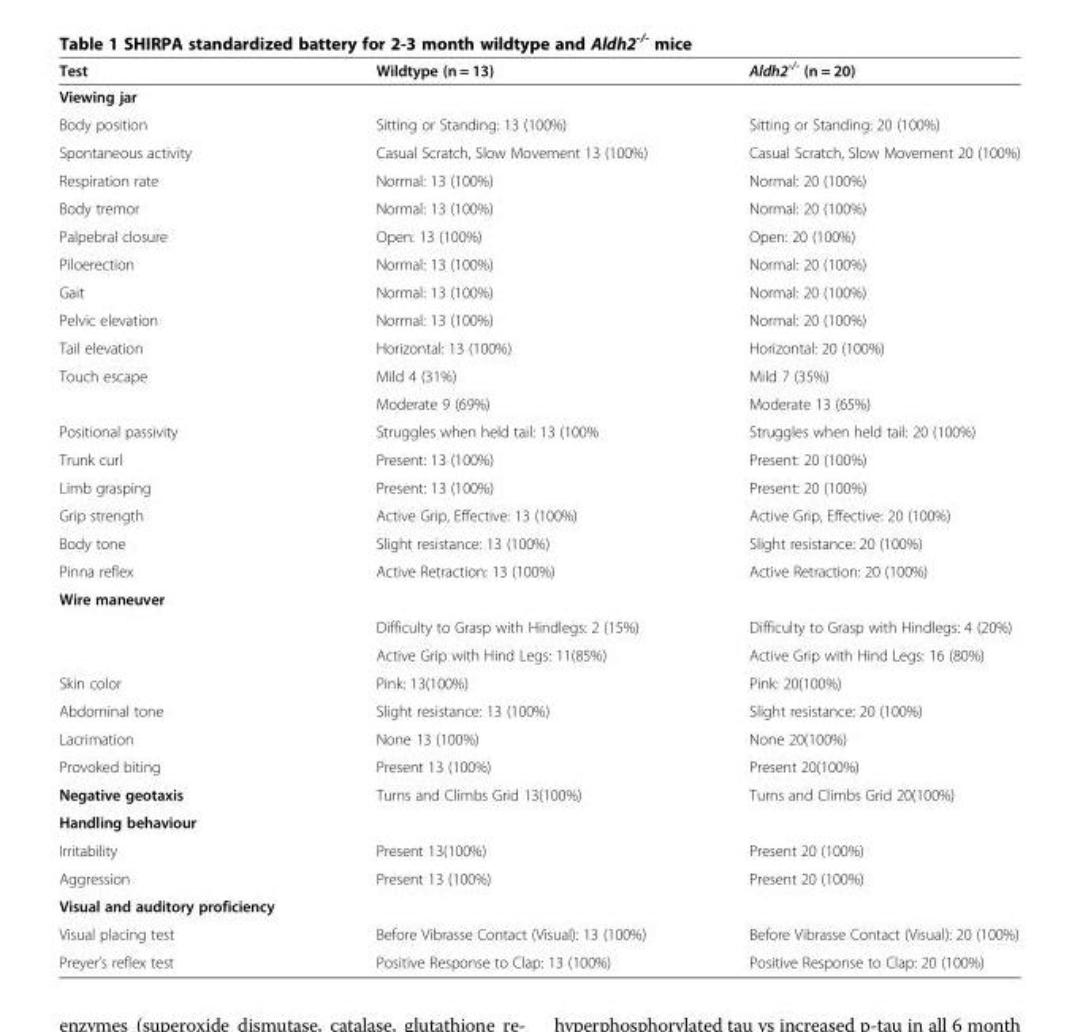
<table><thead><tr><td>Test</td><td>Wildtype (n = 13)</td><td>Aldh2<sup>-/-</sup> (n = 20)</td></tr></thead><tbody><tr><td colspan="3">Viewing jar</td></tr><tr><td>Body position</td><td>Sitting or Standing: 13 (100%)</td><td>Sitting or Standing: 20 (100%)</td></tr><tr><td>Spontaneous activity</td><td>Casual Scratch, Slow Movement 13 (100%)</td><td>Casual Scratch, Slow Movement 20 (100%)</td></tr><tr><td>Respiration rate</td><td>Normal: 13 (100%)</td><td>Normal: 20 (100%)</td></tr><tr><td>Body tremor</td><td>Normal: 13 (100%)</td><td>Normal: 20 (100%)</td></tr><tr><td>Palpebral closure</td><td>Open: 13 (100%)</td><td>Open: 20 (100%)</td></tr><tr><td>Piloerection</td><td>Normal: 13 (100%)</td><td>Normal: 20 (100%)</td></tr><tr><td>Gait</td><td>Normal: 13 (100%)</td><td>Normal: 20 (100%)</td></tr><tr><td>Pelvic elevation</td><td>Normal: 13 (100%)</td><td>Normal: 20 (100%)</td></tr><tr><td>Tail elevation</td><td>Horizontal: 13 (100%)</td><td>Horizontal: 20 (100%)</td></tr><tr><td rowspan="2">Touch escape</td><td>Mild 4 (31%)</td><td>Mild 7 (35%)</td></tr><tr><td>Moderate 9 (69%)</td><td>Moderate 13 (65%)</td></tr><tr><td>Positional passivity</td><td>Struggles when held tail: 13 (100%</td><td>Struggles when held tail: 20 (100%)</td></tr><tr><td>Trunk curl</td><td>Present: 13 (100%)</td><td>Present: 20 (100%)</td></tr><tr><td>Limb grasping</td><td>Present: 13 (100%)</td><td>Present: 20 (100%)</td></tr><tr><td>Grip strength</td><td>Active Grip, Effective: 13 (100%)</td><td>Active Grip, Effective: 20 (100%)</td></tr><tr><td>Body tone</td><td>Slight resistance: 13 (100%)</td><td>Slight resistance: 20 (100%)</td></tr><tr><td>Pinna reflex</td><td>Active Retraction: 13 (100%)</td><td>Active Retraction: 20 (100%)</td></tr><tr><td colspan="3">Wire maneuver</td></tr><tr><td></td><td>Difficulty to Grasp with Hindlegs: 2 (15%)</td><td>Difficulty to Grasp with Hindlegs: 4 (20%)</td></tr><tr><td></td><td>Active Grip with Hind Legs: 11(85%)</td><td>Active Grip with Hind Legs: 16 (80%)</td></tr><tr><td>Skin color</td><td>Pink: 13(100%)</td><td>Pink: 20(100%)</td></tr><tr><td>Abdominal tone</td><td>Slight resistance: 13 (100%)</td><td>Slight resistance: 20 (100%)</td></tr><tr><td>Lacrimation</td><td>None 13 (100%)</td><td>None 20(100%)</td></tr><tr><td>Provoked biting</td><td>Present 13 (100%)</td><td>Present 20(100%)</td></tr><tr><td>Negative geotaxis</td><td>Turns and Climbs Grid 13(100%)</td><td>Turns and Climbs Grid 20(100%)</td></tr><tr><td colspan="3">Handling behaviour</td></tr><tr><td>Irritability</td><td>Present 13(100%)</td><td>Present 20 (100%)</td></tr><tr><td>Aggression</td><td>Present 13 (100%)</td><td>Present 20 (100%)</td></tr><tr><td colspan="3">Visual and auditory proficiency</td></tr><tr><td>Visual placing test</td><td>Before Vibrasse Contact (Visual): 13 (100%)</td><td>Before Vibrasse Contact (Visual): 20 (100%)</td></tr><tr><td>Preyer’s reflex test</td><td>Positive Response to Clap: 13 (100%)</td><td>Positive Response to Clap: 20 (100%)</td></tr></tbody></table>